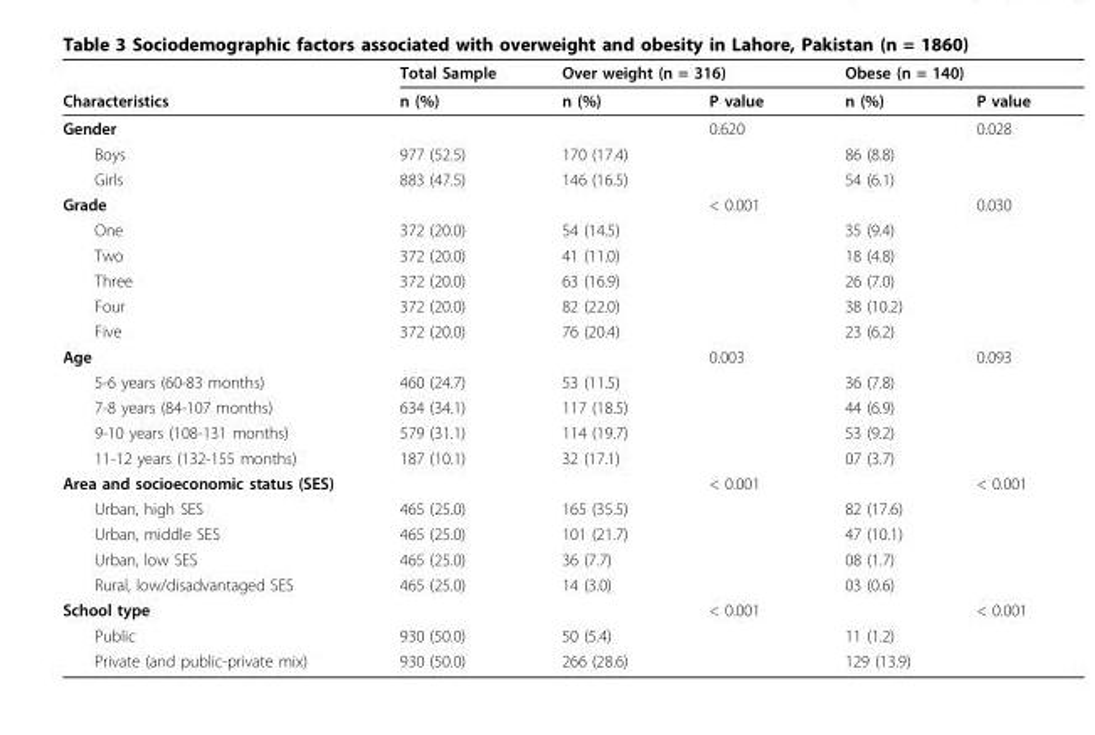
<table><thead><tr><td rowspan="2">Characteristics</td><td rowspan="2">Total Sample n (%)</td><td colspan="2">Over weight (n = 316)</td><td colspan="2">Obese (n = 140)</td></tr><tr><td>n (%)</td><td>P value</td><td>n (%)</td><td>P value</td></tr></thead><tbody><tr><td>Gender</td><td></td><td></td><td>0.620</td><td></td><td>0.028</td></tr><tr><td>Boys</td><td>977 (52.5)</td><td>170 (17.4)</td><td></td><td>86 (8.8)</td><td></td></tr><tr><td>Girls</td><td>883 (47.5)</td><td>146 (16.5)</td><td></td><td>54 (6.1)</td><td></td></tr><tr><td>Grade</td><td></td><td></td><td>&lt; 0.001</td><td></td><td>0.030</td></tr><tr><td>One</td><td>372 (20.0)</td><td>54 (14.5)</td><td></td><td>35 (9.4)</td><td></td></tr><tr><td>Two</td><td>372 (20.0)</td><td>41 (11.0)</td><td></td><td>18 (4.8)</td><td></td></tr><tr><td>Three</td><td>372 (20.0)</td><td>63 (16.9)</td><td></td><td>26 (7.0)</td><td></td></tr><tr><td>Four</td><td>372 (20.0)</td><td>82 (22.0)</td><td></td><td>38 (10.2)</td><td></td></tr><tr><td>Five</td><td>372 (20.0)</td><td>76 (20.4)</td><td></td><td>23 (6.2)</td><td></td></tr><tr><td>Age</td><td></td><td></td><td>0.003</td><td></td><td>0.093</td></tr><tr><td>5-6 years (60-83 months)</td><td>460 (24.7)</td><td>53 (11.5)</td><td></td><td>36 (7.8)</td><td></td></tr><tr><td>7-8 years (84-107 months)</td><td>634 (34.1)</td><td>117 (18.5)</td><td></td><td>44 (6.9)</td><td></td></tr><tr><td>9-10 years (108-131 months)</td><td>579 (31.1)</td><td>114 (19.7)</td><td></td><td>53 (9.2)</td><td></td></tr><tr><td>11-12 years (132-155 months)</td><td>187 (10.1)</td><td>32 (17.1)</td><td></td><td>07 (3.7)</td><td></td></tr><tr><td>Area and socioeconomic status (SES)</td><td></td><td></td><td>&lt; 0.001</td><td></td><td>&lt; 0.001</td></tr><tr><td>Urban, high SES</td><td>465 (25.0)</td><td>165 (35.5)</td><td></td><td>82 (17.6)</td><td></td></tr><tr><td>Urban, middle SES</td><td>465 (25.0)</td><td>101 (21.7)</td><td></td><td>47 (10.1)</td><td></td></tr><tr><td>Urban, low SES</td><td>465 (25.0)</td><td>36 (7.7)</td><td></td><td>08 (1.7)</td><td></td></tr><tr><td>Rural, low/disadvantaged SES</td><td>465 (25.0)</td><td>14 (3.0)</td><td></td><td>03 (0.6)</td><td></td></tr><tr><td>School type</td><td></td><td></td><td>&lt; 0.001</td><td></td><td>&lt; 0.001</td></tr><tr><td>Public</td><td>930 (50.0)</td><td>50 (5.4)</td><td></td><td>11 (1.2)</td><td></td></tr><tr><td>Private (and public-private mix)</td><td>930 (50.0)</td><td>266 (28.6)</td><td></td><td>129 (13.9)</td><td></td></tr></tbody></table>